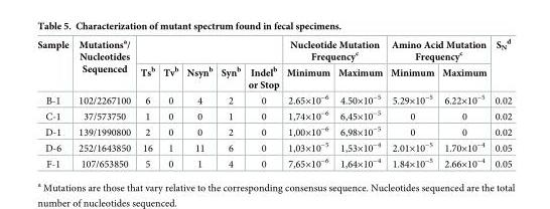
<table><thead><tr><td rowspan="2">Sample</td><td rowspan="2">Mutations<sup>a</sup>/ Nucleotides Sequenced</td><td rowspan="2">Ts<sup>b</sup></td><td rowspan="2">Tv<sup>b</sup></td><td rowspan="2">Nsyn<sup>b</sup></td><td rowspan="2">Syn<sup>b</sup></td><td rowspan="2">Indel<sup>b</sup> or Stop</td><td colspan="2">Nucleotide Mutation Frequency<sup>c</sup></td><td colspan="2">Amino Acid Mutation Frequency<sup>c</sup></td><td rowspan="2">S<sub>N</sub> <sup>d</sup></td></tr><tr><td>Minimum</td><td>Maximum</td><td>Minimum</td><td>Maximum</td></tr></thead><tbody><tr><td>B-1</td><td>102/2267100</td><td>6</td><td>0</td><td>4</td><td>2</td><td>0</td><td>2.65×10<sup>−6</sup></td><td>4.50×10<sup>−5</sup></td><td>5.29×10<sup>−5</sup></td><td>6.22×10<sup>−5</sup></td><td>0.02</td></tr><tr><td>C-1</td><td>37/573750</td><td>1</td><td>0</td><td>0</td><td>1</td><td>0</td><td>1,74×10<sup>−6</sup></td><td>6,45×10<sup>−5</sup></td><td>0</td><td>0</td><td>0.02</td></tr><tr><td>D-1</td><td>139/1990800</td><td>2</td><td>0</td><td>0</td><td>2</td><td>0</td><td>1,00×10<sup>−6</sup></td><td>6,98×10<sup>−5</sup></td><td>0</td><td>0</td><td>0.02</td></tr><tr><td>D-6</td><td>252/1643850</td><td>16</td><td>1</td><td>11</td><td>6</td><td>0</td><td>1,03×10<sup>−5</sup></td><td>1,53×10<sup>−4</sup></td><td>2.01×10<sup>−5</sup></td><td>1.70×10<sup>−4</sup></td><td>0.05</td></tr><tr><td>F-1</td><td>107/653850</td><td>5</td><td>0</td><td>1</td><td>4</td><td>0</td><td>7,65×10<sup>−6</sup></td><td>1,64×10<sup>−4</sup></td><td>1.84×10<sup>−5</sup></td><td>2.66×10<sup>−4</sup></td><td>0.05</td></tr></tbody></table>